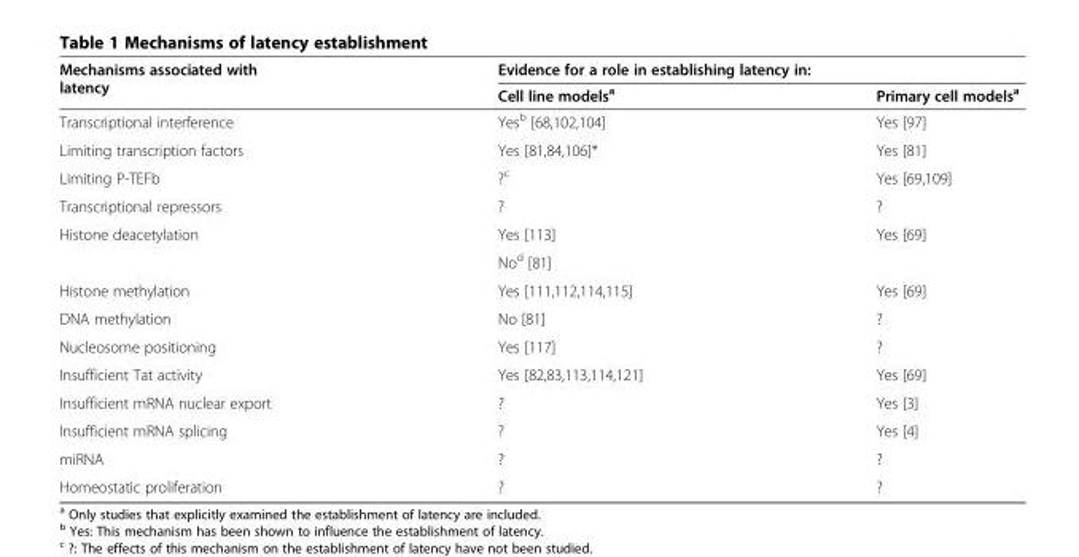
<table><thead><tr><td rowspan="2">Mechanisms associated with latency</td><td colspan="2">Evidence for a role in establishing latency in:</td></tr><tr><td>Cell line models<sup>a</sup></td><td>Primary cell models<sup>a</sup></td></tr></thead><tbody><tr><td>Transcriptional interference</td><td>Yes<sup>b</sup> [68,102,104]</td><td>Yes [97]</td></tr><tr><td>Limiting transcription factors</td><td>Yes [81,84,106]*</td><td>Yes [81]</td></tr><tr><td>Limiting P-TEFb</td><td>?<sup>c</sup></td><td>Yes [69,109]</td></tr><tr><td>Transcriptional repressors</td><td>?</td><td>?</td></tr><tr><td rowspan="2">Histone deacetylation</td><td>Yes [113]</td><td rowspan="2">Yes [69]</td></tr><tr><td>No<sup>d</sup> [81]</td></tr><tr><td>Histone methylation</td><td>Yes [111,112,114,115]</td><td>Yes [69]</td></tr><tr><td>DNA methylation</td><td>No [81]</td><td>?</td></tr><tr><td>Nucleosome positioning</td><td>Yes [117]</td><td>?</td></tr><tr><td>Insufficient Tat activity</td><td>Yes [82,83,113,114,121]</td><td>Yes [69]</td></tr><tr><td>Insufficient mRNA nuclear export</td><td>?</td><td>Yes [3]</td></tr><tr><td>Insufficient mRNA splicing</td><td>?</td><td>Yes [4]</td></tr><tr><td>miRNA</td><td>?</td><td>?</td></tr><tr><td>Homeostatic proliferation</td><td>?</td><td>?</td></tr></tbody></table>